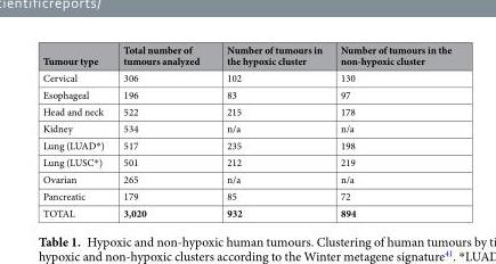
<table><thead><tr><td>Tumour type</td><td>Total number of tumours analyzed</td><td>Number of tumours in the hypoxic cluster</td><td>Number of tumours in the non-hypoxic cluster</td></tr></thead><tbody><tr><td>Cervical</td><td>306</td><td>102</td><td>130</td></tr><tr><td>Esophageal</td><td>196</td><td>83</td><td>97</td></tr><tr><td>Head and neck</td><td>522</td><td>215</td><td>178</td></tr><tr><td>Kidney</td><td>534</td><td>n/a</td><td>n/a</td></tr><tr><td>Lung (LUAD*)</td><td>517</td><td>235</td><td>198</td></tr><tr><td>Lung (LUSC*)</td><td>501</td><td>212</td><td>219</td></tr><tr><td>Ovarian</td><td>265</td><td>n/a</td><td>n/a</td></tr><tr><td>Pancreatic</td><td>179</td><td>85</td><td>72</td></tr><tr><td>TOTAL</td><td>3,020</td><td>932</td><td>894</td></tr></tbody></table>